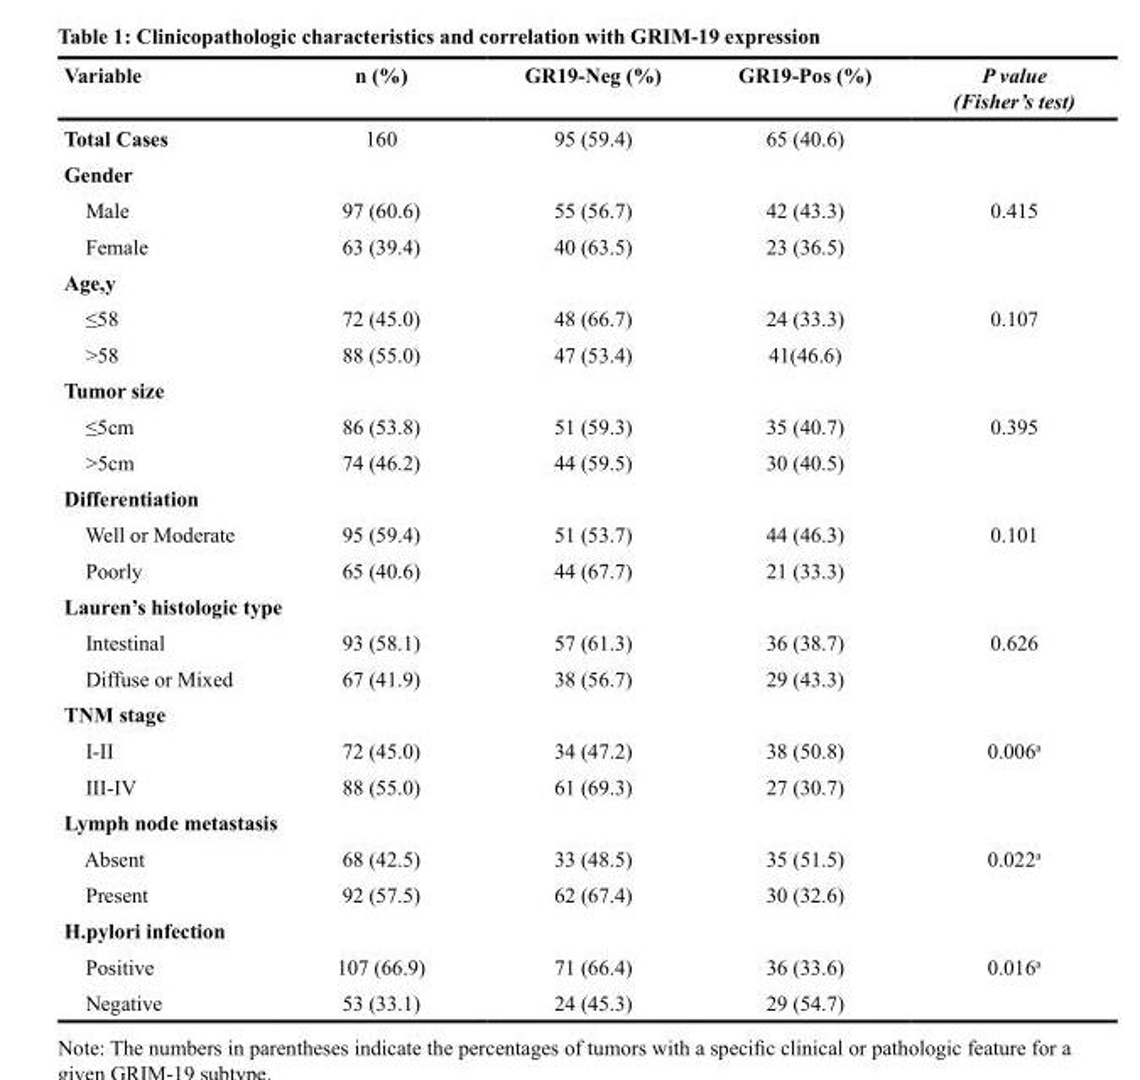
<table><thead><tr><td>Variable</td><td>n (%)</td><td>GR19-Neg (%)</td><td>GR19-Pos (%)</td><td>P value (Fisher’s test)</td></tr></thead><tbody><tr><td>Total Cases</td><td>160</td><td>95 (59.4)</td><td>65 (40.6)</td><td></td></tr><tr><td colspan="5">Gender</td></tr><tr><td>Male</td><td>97 (60.6)</td><td>55 (56.7)</td><td>42 (43.3)</td><td>0.415</td></tr><tr><td>Female</td><td>63 (39.4)</td><td>40 (63.5)</td><td>23 (36.5)</td><td></td></tr><tr><td colspan="5">Age,y</td></tr><tr><td>≤58</td><td>72 (45.0)</td><td>48 (66.7)</td><td>24 (33.3)</td><td>0.107</td></tr><tr><td>&gt;58</td><td>88 (55.0)</td><td>47 (53.4)</td><td>41(46.6)</td><td></td></tr><tr><td colspan="5">Tumor size</td></tr><tr><td>≤5cm</td><td>86 (53.8)</td><td>51 (59.3)</td><td>35 (40.7)</td><td>0.395</td></tr><tr><td>&gt;5cm</td><td>74 (46.2)</td><td>44 (59.5)</td><td>30 (40.5)</td><td></td></tr><tr><td colspan="5">Differentiation</td></tr><tr><td>Well or Moderate</td><td>95 (59.4)</td><td>51 (53.7)</td><td>44 (46.3)</td><td>0.101</td></tr><tr><td>Poorly</td><td>65 (40.6)</td><td>44 (67.7)</td><td>21 (33.3)</td><td></td></tr><tr><td colspan="5">Lauren’s histologic type</td></tr><tr><td>Intestinal</td><td>93 (58.1)</td><td>57 (61.3)</td><td>36 (38.7)</td><td>0.626</td></tr><tr><td>Diffuse or Mixed</td><td>67 (41.9)</td><td>38 (56.7)</td><td>29 (43.3)</td><td></td></tr><tr><td colspan="5">TNM stage</td></tr><tr><td>I-II</td><td>72 (45.0)</td><td>34 (47.2)</td><td>38 (50.8)</td><td>0.006<sup>a</sup></td></tr><tr><td>III-IV</td><td>88 (55.0)</td><td>61 (69.3)</td><td>27 (30.7)</td><td></td></tr><tr><td colspan="5">Lymph node metastasis</td></tr><tr><td>Absent</td><td>68 (42.5)</td><td>33 (48.5)</td><td>35 (51.5)</td><td>0.022<sup>a</sup></td></tr><tr><td>Present</td><td>92 (57.5)</td><td>62 (67.4)</td><td>30 (32.6)</td><td></td></tr><tr><td colspan="5">H.pylori infection</td></tr><tr><td>Positive</td><td>107 (66.9)</td><td>71 (66.4)</td><td>36 (33.6)</td><td>0.016<sup>a</sup></td></tr><tr><td>Negative</td><td>53 (33.1)</td><td>24 (45.3)</td><td>29 (54.7)</td><td></td></tr></tbody></table>